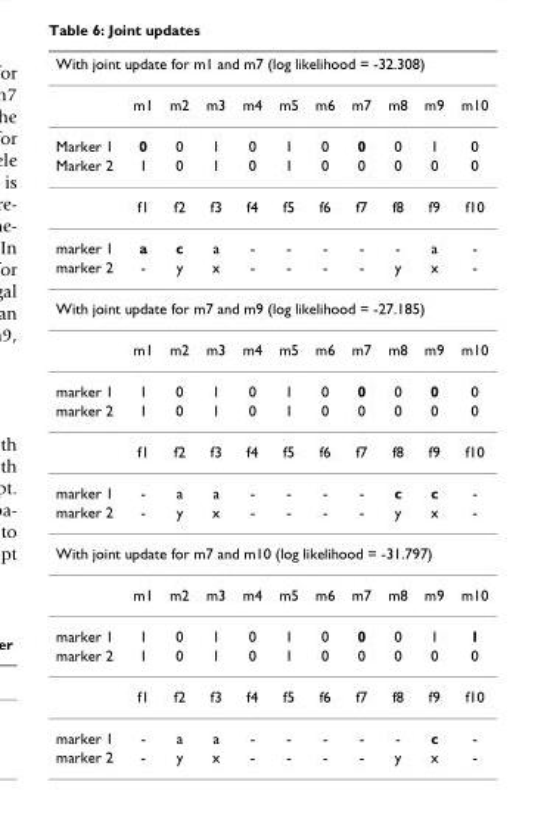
<table><thead><tr><td colspan="11">With joint update for m1 and m7 (log likelihood = -32.308)</td></tr><tr><td></td><td>m1</td><td>m2</td><td>m3</td><td>m4</td><td>m5</td><td>m6</td><td>m7</td><td>m8</td><td>m9</td><td>m10</td></tr></thead><tbody><tr><td>Marker 1</td><td>0</td><td>0</td><td>1</td><td>0</td><td>1</td><td>0</td><td>0</td><td>0</td><td>1</td><td>0</td></tr><tr><td rowspan="2">Marker 2</td><td>1</td><td>0</td><td>1</td><td>0</td><td>1</td><td>0</td><td>0</td><td>0</td><td>0</td><td>0</td></tr><tr><td>f1</td><td>f2</td><td>f3</td><td>f4</td><td>f5</td><td>f6</td><td>f7</td><td>f8</td><td>f9</td><td>f10</td></tr><tr><td>marker 1</td><td>a</td><td>c</td><td>a</td><td>-</td><td>-</td><td>-</td><td>-</td><td>-</td><td>a</td><td>-</td></tr><tr><td>marker 2</td><td>-</td><td>y</td><td>x</td><td>-</td><td>-</td><td>-</td><td>-</td><td>y</td><td>x</td><td>-</td></tr><tr><td colspan="11">With joint update for m7 and m9 (log likelihood = -27.185)</td></tr><tr><td></td><td>m1</td><td>m2</td><td>m3</td><td>m4</td><td>m5</td><td>m6</td><td>m7</td><td>m8</td><td>m9</td><td>m10</td></tr><tr><td>marker 1</td><td>1</td><td>0</td><td>1</td><td>0</td><td>1</td><td>0</td><td>0</td><td>0</td><td>0</td><td>0</td></tr><tr><td rowspan="2">marker 2</td><td>1</td><td>0</td><td>1</td><td>0</td><td>1</td><td>0</td><td>0</td><td>0</td><td>0</td><td>0</td></tr><tr><td>f1</td><td>f2</td><td>f3</td><td>f4</td><td>f5</td><td>f6</td><td>f7</td><td>f8</td><td>f9</td><td>f10</td></tr><tr><td>marker 1</td><td>-</td><td>a</td><td>a</td><td>-</td><td>-</td><td>-</td><td>-</td><td>c</td><td>c</td><td>-</td></tr><tr><td>marker 2</td><td>-</td><td>y</td><td>x</td><td>-</td><td>-</td><td>-</td><td>-</td><td>y</td><td>x</td><td>-</td></tr><tr><td colspan="11">With joint update for m7 and m10 (log likelihood = -31.797)</td></tr><tr><td></td><td>m1</td><td>m2</td><td>m3</td><td>m4</td><td>m5</td><td>m6</td><td>m7</td><td>m8</td><td>m9</td><td>m10</td></tr><tr><td>marker 1</td><td>1</td><td>0</td><td>1</td><td>0</td><td>1</td><td>0</td><td>0</td><td>0</td><td>1</td><td>1</td></tr><tr><td rowspan="2">marker 2</td><td>1</td><td>0</td><td>1</td><td>0</td><td>1</td><td>0</td><td>0</td><td>0</td><td>0</td><td>0</td></tr><tr><td>f1</td><td>f2</td><td>f3</td><td>f4</td><td>f5</td><td>f6</td><td>f7</td><td>f8</td><td>f9</td><td>f10</td></tr><tr><td>marker 1</td><td>-</td><td>a</td><td>a</td><td>-</td><td>-</td><td>-</td><td>-</td><td>-</td><td>c</td><td>-</td></tr><tr><td>marker 2</td><td>-</td><td>y</td><td>x</td><td>-</td><td>-</td><td>-</td><td>-</td><td>y</td><td>x</td><td>-</td></tr></tbody></table>